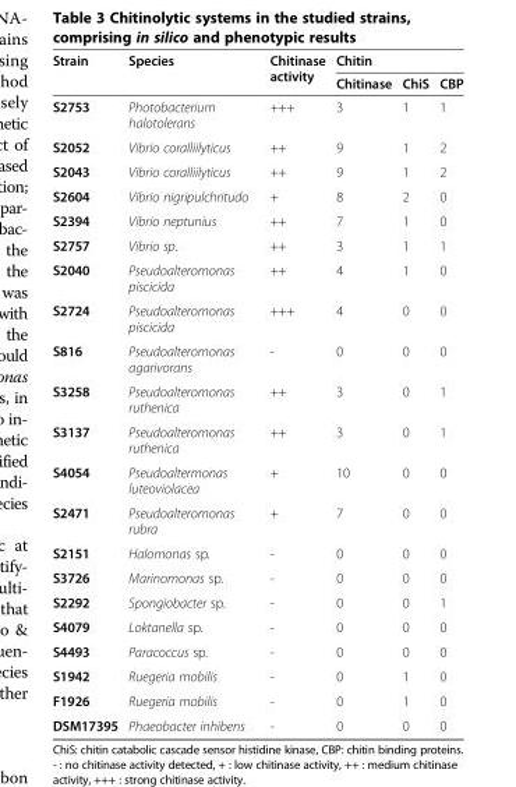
<table><thead><tr><td rowspan="2">Strain</td><td rowspan="2">Species</td><td rowspan="2">Chitinase activity</td><td colspan="3">Chitin</td></tr><tr><td>Chitinase</td><td>ChiS</td><td>CBP</td></tr></thead><tbody><tr><td>S2753</td><td>Photobacterium halotolerans</td><td>+++</td><td>3</td><td>1</td><td>1</td></tr><tr><td>S2052</td><td>Vibrio coralliilyticus</td><td>++</td><td>9</td><td>1</td><td>2</td></tr><tr><td>S2043</td><td>Vibrio coralliilyticus</td><td>++</td><td>9</td><td>1</td><td>2</td></tr><tr><td>S2604</td><td>Vibrio nigripulchritudo</td><td>+</td><td>8</td><td>2</td><td>0</td></tr><tr><td>S2394</td><td>Vibrio neptunius</td><td>++</td><td>7</td><td>1</td><td>0</td></tr><tr><td>S2757</td><td>Vibrio sp.</td><td>++</td><td>3</td><td>1</td><td>1</td></tr><tr><td>S2040</td><td>Pseudoalteromonas piscicida</td><td>++</td><td>4</td><td>1</td><td>0</td></tr><tr><td>S2724</td><td>Pseudoalteromonas piscicida</td><td>+++</td><td>4</td><td>0</td><td>0</td></tr><tr><td>S816</td><td>Pseudoalteromonas agarivorans</td><td>-</td><td>0</td><td>0</td><td>0</td></tr><tr><td>S3258</td><td>Pseudoalteromonas ruthenica</td><td>++</td><td>3</td><td>0</td><td>1</td></tr><tr><td>S3137</td><td>Pseudoalteromonas ruthenica</td><td>++</td><td>3</td><td>0</td><td>1</td></tr><tr><td>S4054</td><td>Pseudoaltermonas luteoviolacea</td><td>+</td><td>10</td><td>0</td><td>0</td></tr><tr><td>S2471</td><td>Pseudoalteromonas rubra</td><td>+</td><td>7</td><td>0</td><td>0</td></tr><tr><td>S2151</td><td>Halomonas sp.</td><td>-</td><td>0</td><td>0</td><td>0</td></tr><tr><td>S3726</td><td>Marinomonas sp.</td><td>-</td><td>0</td><td>0</td><td>0</td></tr><tr><td>S2292</td><td>Spongiobacter sp.</td><td>-</td><td>0</td><td>0</td><td>1</td></tr><tr><td>S4079</td><td>Loktanella sp.</td><td>-</td><td>0</td><td>0</td><td>0</td></tr><tr><td>S4493</td><td>Paracoccus sp.</td><td>-</td><td>0</td><td>0</td><td>0</td></tr><tr><td>S1942</td><td>Ruegeria mobilis</td><td>-</td><td>0</td><td>1</td><td>0</td></tr><tr><td>F1926</td><td>Ruegeria mobilis</td><td>-</td><td>0</td><td>1</td><td>0</td></tr><tr><td>DSM17395</td><td>Phaeobacter inhibens</td><td>-</td><td>0</td><td>0</td><td>0</td></tr></tbody></table>